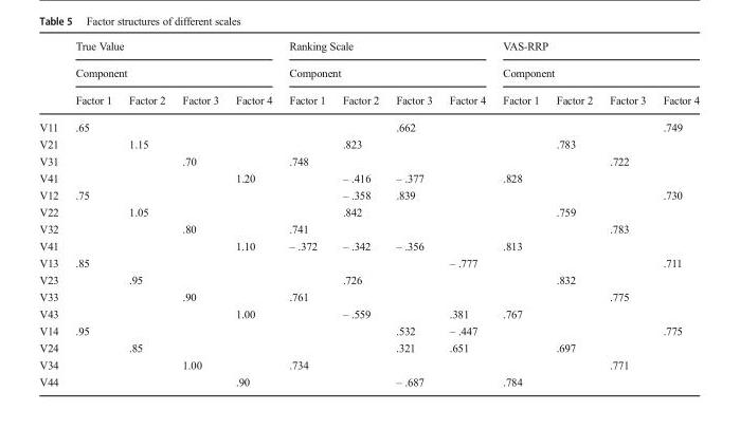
<table><thead><tr><td rowspan="3"></td><td rowspan="2" colspan="4">True Value Component</td><td rowspan="2" colspan="4">Ranking Scale Component</td><td rowspan="2" colspan="4">VAS-RRP Component</td></tr><tr></tr><tr><td>Factor 1</td><td>Factor 2</td><td>Factor 3</td><td>Factor 4</td><td>Factor 1</td><td>Factor 2</td><td>Factor 3</td><td>Factor 4</td><td>Factor 1</td><td>Factor 2</td><td>Factor 3</td><td>Factor 4</td></tr></thead><tbody><tr><td>V11</td><td>.65</td><td></td><td></td><td></td><td></td><td></td><td>.662</td><td></td><td></td><td></td><td></td><td>.749</td></tr><tr><td>V21</td><td></td><td>1.15</td><td></td><td></td><td></td><td>.823</td><td></td><td></td><td></td><td>.783</td><td></td><td></td></tr><tr><td>V31</td><td></td><td></td><td>.70</td><td></td><td>.748</td><td></td><td></td><td></td><td></td><td></td><td>.722</td><td></td></tr><tr><td>V41</td><td></td><td></td><td></td><td>1.20</td><td></td><td>– .416</td><td>– .377</td><td></td><td>.828</td><td></td><td></td><td></td></tr><tr><td>V12</td><td>.75</td><td></td><td></td><td></td><td></td><td>– .358</td><td>.839</td><td></td><td></td><td></td><td></td><td>.730</td></tr><tr><td>V22</td><td></td><td>1.05</td><td></td><td></td><td></td><td>.842</td><td></td><td></td><td></td><td>.759</td><td></td><td></td></tr><tr><td>V32</td><td></td><td></td><td>.80</td><td></td><td>.741</td><td></td><td></td><td></td><td></td><td></td><td>.783</td><td></td></tr><tr><td>V41</td><td></td><td></td><td></td><td>1.10</td><td>– .372</td><td>– .342</td><td>– .356</td><td></td><td>.813</td><td></td><td></td><td></td></tr><tr><td>V13</td><td>.85</td><td></td><td></td><td></td><td></td><td></td><td></td><td>– .777</td><td></td><td></td><td></td><td>.711</td></tr><tr><td>V23</td><td></td><td>.95</td><td></td><td></td><td></td><td>.726</td><td></td><td></td><td></td><td>.832</td><td></td><td></td></tr><tr><td>V33</td><td></td><td></td><td>.90</td><td></td><td>.761</td><td></td><td></td><td></td><td></td><td></td><td>.775</td><td></td></tr><tr><td>V43</td><td></td><td></td><td></td><td>1.00</td><td></td><td>– .559</td><td></td><td>.381</td><td>.767</td><td></td><td></td><td></td></tr><tr><td>V14</td><td>.95</td><td></td><td></td><td></td><td></td><td></td><td>.532</td><td>– .447</td><td></td><td></td><td></td><td>.775</td></tr><tr><td>V24</td><td></td><td>.85</td><td></td><td></td><td></td><td></td><td>.321</td><td>.651</td><td></td><td>.697</td><td></td><td></td></tr><tr><td>V34</td><td></td><td></td><td>1.00</td><td></td><td>.734</td><td></td><td></td><td></td><td></td><td></td><td>.771</td><td></td></tr><tr><td>V44</td><td></td><td></td><td></td><td>.90</td><td></td><td></td><td>– .687</td><td></td><td>.784</td><td></td><td></td><td></td></tr></tbody></table>